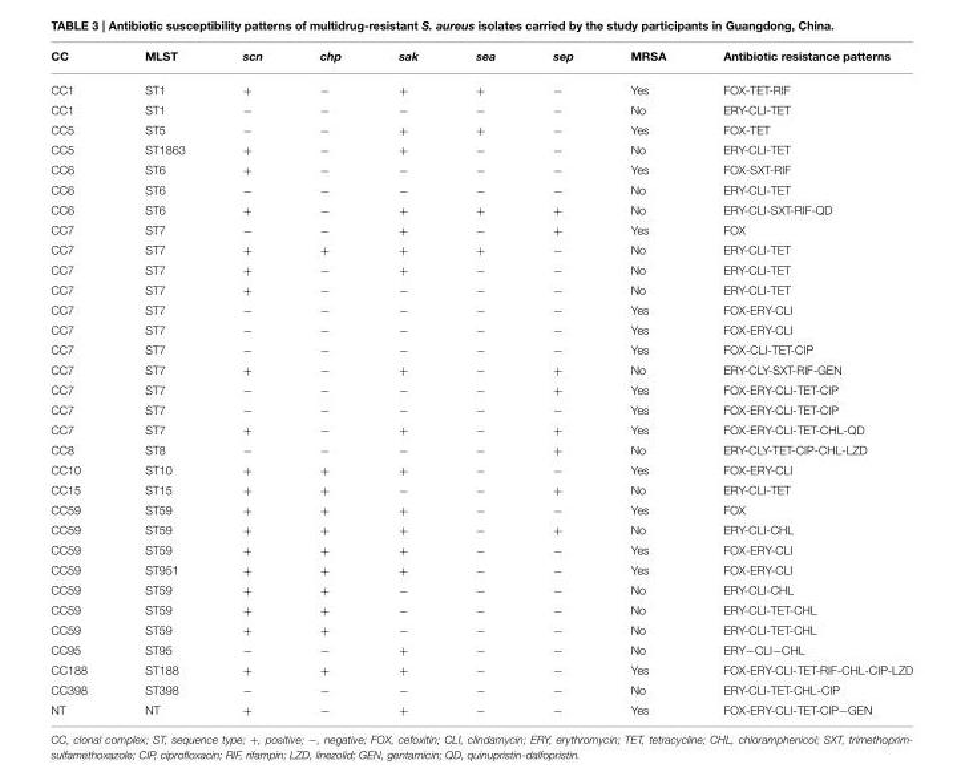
<table><thead><tr><td>CC</td><td>MLST</td><td>scn</td><td>chp</td><td>sak</td><td>sea</td><td>sep</td><td>MRSA</td><td>Antibiotic resistance patterns</td></tr></thead><tbody><tr><td>CC1</td><td>ST1</td><td>+</td><td>−</td><td>+</td><td>+</td><td>−</td><td>Yes</td><td>FOX-TET-RIF</td></tr><tr><td>CC1</td><td>ST1</td><td>−</td><td>−</td><td>−</td><td>−</td><td>−</td><td>No</td><td>ERY-CLI-TET</td></tr><tr><td>CC5</td><td>ST5</td><td>−</td><td>−</td><td>+</td><td>+</td><td>−</td><td>Yes</td><td>FOX-TET</td></tr><tr><td>CC5</td><td>ST1863</td><td>+</td><td>−</td><td>+</td><td>−</td><td>−</td><td>No</td><td>ERY-CLI-TET</td></tr><tr><td>CC6</td><td>ST6</td><td>+</td><td>−</td><td>−</td><td>−</td><td>−</td><td>Yes</td><td>FOX-SXT-RIF</td></tr><tr><td>CC6</td><td>ST6</td><td>−</td><td>−</td><td>−</td><td>−</td><td>−</td><td>No</td><td>ERY-CLI-TET</td></tr><tr><td>CC6</td><td>ST6</td><td>+</td><td>−</td><td>+</td><td>+</td><td>+</td><td>No</td><td>ERY-CLI-SXT-RIF-QD</td></tr><tr><td>CC7</td><td>ST7</td><td>−</td><td>−</td><td>+</td><td>−</td><td>+</td><td>Yes</td><td>FOX</td></tr><tr><td>CC7</td><td>ST7</td><td>+</td><td>+</td><td>+</td><td>+</td><td>−</td><td>No</td><td>ERY-CLI-TET</td></tr><tr><td>CC7</td><td>ST7</td><td>+</td><td>−</td><td>+</td><td>−</td><td>−</td><td>No</td><td>ERY-CLI-TET</td></tr><tr><td>CC7</td><td>ST7</td><td>+</td><td>−</td><td>−</td><td>−</td><td>−</td><td>No</td><td>ERY-CLI-TET</td></tr><tr><td>CC7</td><td>ST7</td><td>−</td><td>−</td><td>−</td><td>−</td><td>−</td><td>Yes</td><td>FOX-ERY-CLI</td></tr><tr><td>CC7</td><td>ST7</td><td>−</td><td>−</td><td>−</td><td>−</td><td>−</td><td>Yes</td><td>FOX-ERY-CLI</td></tr><tr><td>CC7</td><td>ST7</td><td>−</td><td>−</td><td>−</td><td>−</td><td>−</td><td>Yes</td><td>FOX-CLI-TET-CIP</td></tr><tr><td>CC7</td><td>ST7</td><td>+</td><td>−</td><td>+</td><td>−</td><td>+</td><td>No</td><td>ERY-CLY-SXT-RIF-GEN</td></tr><tr><td>CC7</td><td>ST7</td><td>−</td><td>−</td><td>−</td><td>−</td><td>+</td><td>Yes</td><td>FOX-ERY-CLI-TET-CIP</td></tr><tr><td>CC7</td><td>ST7</td><td>−</td><td>−</td><td>−</td><td>−</td><td>−</td><td>Yes</td><td>FOX-ERY-CLI-TET-CIP</td></tr><tr><td>CC7</td><td>ST7</td><td>+</td><td>−</td><td>+</td><td>−</td><td>+</td><td>Yes</td><td>FOX-ERY-CLI-TET-CHL-QD</td></tr><tr><td>CC8</td><td>ST8</td><td>−</td><td>−</td><td>−</td><td>−</td><td>+</td><td>No</td><td>ERY-CLY-TET-CIP-CHL-LZD</td></tr><tr><td>CC10</td><td>ST10</td><td>+</td><td>+</td><td>+</td><td>−</td><td>−</td><td>Yes</td><td>FOX-ERY-CLI</td></tr><tr><td>CC15</td><td>ST15</td><td>+</td><td>+</td><td>−</td><td>−</td><td>+</td><td>No</td><td>ERY-CLI-TET</td></tr><tr><td>CC59</td><td>ST59</td><td>+</td><td>+</td><td>+</td><td>−</td><td>−</td><td>Yes</td><td>FOX</td></tr><tr><td>CC59</td><td>ST59</td><td>+</td><td>+</td><td>+</td><td>−</td><td>+</td><td>No</td><td>ERY-CLI-CHL</td></tr><tr><td>CC59</td><td>ST59</td><td>+</td><td>+</td><td>+</td><td>−</td><td>−</td><td>Yes</td><td>FOX-ERY-CLI</td></tr><tr><td>CC59</td><td>ST951</td><td>+</td><td>+</td><td>+</td><td>−</td><td>−</td><td>Yes</td><td>FOX-ERY-CLI</td></tr><tr><td>CC59</td><td>ST59</td><td>+</td><td>+</td><td>−</td><td>−</td><td>−</td><td>No</td><td>ERY-CLI-CHL</td></tr><tr><td>CC59</td><td>ST59</td><td>+</td><td>+</td><td>−</td><td>−</td><td>−</td><td>No</td><td>ERY-CLI-TET-CHL</td></tr><tr><td>CC59</td><td>ST59</td><td>+</td><td>+</td><td>−</td><td>−</td><td>−</td><td>No</td><td>ERY-CLI-TET-CHL</td></tr><tr><td>CC95</td><td>ST95</td><td>−</td><td>−</td><td>+</td><td>−</td><td>−</td><td>No</td><td>ERY−CLI−CHL</td></tr><tr><td>CC188</td><td>ST188</td><td>+</td><td>+</td><td>+</td><td>−</td><td>−</td><td>Yes</td><td>FOX-ERY-CLI-TET-RIF-CHL-CIP-LZD</td></tr><tr><td>CC398</td><td>ST398</td><td>−</td><td>−</td><td>−</td><td>−</td><td>−</td><td>No</td><td>ERY-CLI-TET-CHL-CIP</td></tr><tr><td>NT</td><td>NT</td><td>+</td><td>−</td><td>+</td><td>−</td><td>−</td><td>Yes</td><td>FOX-ERY-CLI-TET-CIP−GEN</td></tr></tbody></table>